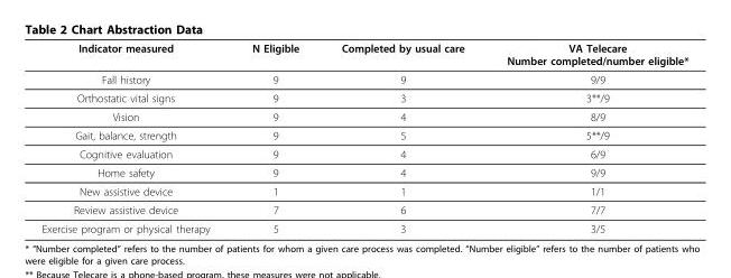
<table><thead><tr><td>Indicator measured</td><td>N Eligible</td><td>Completed by usual care</td><td>VA Telecare Number completed/number eligible*</td></tr></thead><tbody><tr><td>Fall history</td><td>9</td><td>9</td><td>9/9</td></tr><tr><td>Orthostatic vital signs</td><td>9</td><td>3</td><td>3**/9</td></tr><tr><td>Vision</td><td>9</td><td>4</td><td>8/9</td></tr><tr><td>Gait, balance, strength</td><td>9</td><td>5</td><td>5**/9</td></tr><tr><td>Cognitive evaluation</td><td>9</td><td>4</td><td>6/9</td></tr><tr><td>Home safety</td><td>9</td><td>4</td><td>9/9</td></tr><tr><td>New assistive device</td><td>1</td><td>1</td><td>1/1</td></tr><tr><td>Review assistive device</td><td>7</td><td>6</td><td>7/7</td></tr><tr><td>Exercise program or physical therapy</td><td>5</td><td>3</td><td>3/5</td></tr></tbody></table>